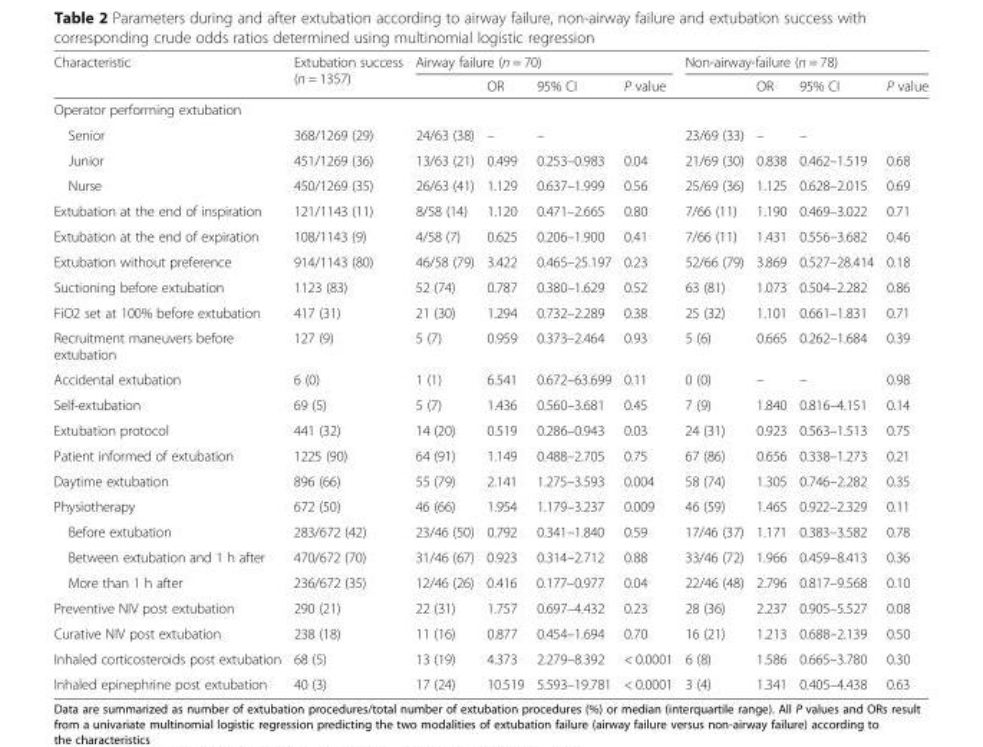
<table><thead><tr><td rowspan="2">Characteristic</td><td rowspan="2">Extubation success (n = 1357)</td><td colspan="4">Airway failure (n = 70)</td><td colspan="4">Non-airway-failure (n = 78)</td></tr><tr><td></td><td>OR</td><td>95% CI</td><td>P value</td><td></td><td>OR</td><td>95% CI</td><td>P value</td></tr></thead><tbody><tr><td colspan="10">Operator performing extubation</td></tr><tr><td>Senior</td><td>368/1269 (29)</td><td>24/63 (38)</td><td>–</td><td>–</td><td></td><td>23/69 (33)</td><td>–</td><td>–</td><td></td></tr><tr><td>Junior</td><td>451/1269 (36)</td><td>13/63 (21)</td><td>0.499</td><td>0.253–0.983</td><td>0.04</td><td>21/69 (30)</td><td>0.838</td><td>0.462–1.519</td><td>0.68</td></tr><tr><td>Nurse</td><td>450/1269 (35)</td><td>26/63 (41)</td><td>1.129</td><td>0.637–1.999</td><td>0.56</td><td>25/69 (36)</td><td>1.125</td><td>0.628–2.015</td><td>0.69</td></tr><tr><td>Extubation at the end of inspiration</td><td>121/1143 (11)</td><td>8/58 (14)</td><td>1.120</td><td>0.471–2.665</td><td>0.80</td><td>7/66 (11)</td><td>1.190</td><td>0.469–3.022</td><td>0.71</td></tr><tr><td>Extubation at the end of expiration</td><td>108/1143 (9)</td><td>4/58 (7)</td><td>0.625</td><td>0.206–1.900</td><td>0.41</td><td>7/66 (11)</td><td>1.431</td><td>0.556–3.682</td><td>0.46</td></tr><tr><td>Extubation without preference</td><td>914/1143 (80)</td><td>46/58 (79)</td><td>3.422</td><td>0.465–25.197</td><td>0.23</td><td>52/66 (79)</td><td>3.869</td><td>0.527–28.414</td><td>0.18</td></tr><tr><td>Suctioning before extubation</td><td>1123 (83)</td><td>52 (74)</td><td>0.787</td><td>0.380–1.629</td><td>0.52</td><td>63 (81)</td><td>1.073</td><td>0.504–2.282</td><td>0.86</td></tr><tr><td>FiO2 set at 100% before extubation</td><td>417 (31)</td><td>21 (30)</td><td>1.294</td><td>0.732–2.289</td><td>0.38</td><td>25 (32)</td><td>1.101</td><td>0.661–1.831</td><td>0.71</td></tr><tr><td>Recruitment maneuvers before extubation</td><td>127 (9)</td><td>5 (7)</td><td>0.959</td><td>0.373–2.464</td><td>0.93</td><td>5 (6)</td><td>0.665</td><td>0.262–1.684</td><td>0.39</td></tr><tr><td>Accidental extubation</td><td>6 (0)</td><td>1 (1)</td><td>6.541</td><td>0.672–63.699</td><td>0.11</td><td>0 (0)</td><td>–</td><td>–</td><td>0.98</td></tr><tr><td>Self-extubation</td><td>69 (5)</td><td>5 (7)</td><td>1.436</td><td>0.560–3.681</td><td>0.45</td><td>7 (9)</td><td>1.840</td><td>0.816–4.151</td><td>0.14</td></tr><tr><td>Extubation protocol</td><td>441 (32)</td><td>14 (20)</td><td>0.519</td><td>0.286–0.943</td><td>0.03</td><td>24 (31)</td><td>0.923</td><td>0.563–1.513</td><td>0.75</td></tr><tr><td>Patient informed of extubation</td><td>1225 (90)</td><td>64 (91)</td><td>1.149</td><td>0.488–2.705</td><td>0.75</td><td>67 (86)</td><td>0.656</td><td>0.338–1.273</td><td>0.21</td></tr><tr><td>Daytime extubation</td><td>896 (66)</td><td>55 (79)</td><td>2.141</td><td>1.275–3.593</td><td>0.004</td><td>58 (74)</td><td>1.305</td><td>0.746–2.282</td><td>0.35</td></tr><tr><td>Physiotherapy</td><td>672 (50)</td><td>46 (66)</td><td>1.954</td><td>1.179–3.237</td><td>0.009</td><td>46 (59)</td><td>1.465</td><td>0.922–2.329</td><td>0.11</td></tr><tr><td>Before extubation</td><td>283/672 (42)</td><td>23/46 (50)</td><td>0.792</td><td>0.341–1.840</td><td>0.59</td><td>17/46 (37)</td><td>1.171</td><td>0.383–3.582</td><td>0.78</td></tr><tr><td>Between extubation and 1 h after</td><td>470/672 (70)</td><td>31/46 (67)</td><td>0.923</td><td>0.314–2.712</td><td>0.88</td><td>33/46 (72)</td><td>1.966</td><td>0.459–8.413</td><td>0.36</td></tr><tr><td>More than 1 h after</td><td>236/672 (35)</td><td>12/46 (26)</td><td>0.416</td><td>0.177–0.977</td><td>0.04</td><td>22/46 (48)</td><td>2.796</td><td>0.817–9.568</td><td>0.10</td></tr><tr><td>Preventive NIV post extubation</td><td>290 (21)</td><td>22 (31)</td><td>1.757</td><td>0.697–4.432</td><td>0.23</td><td>28 (36)</td><td>2.237</td><td>0.905–5.527</td><td>0.08</td></tr><tr><td>Curative NIV post extubation</td><td>238 (18)</td><td>11 (16)</td><td>0.877</td><td>0.454–1.694</td><td>0.70</td><td>16 (21)</td><td>1.213</td><td>0.688–2.139</td><td>0.50</td></tr><tr><td>Inhaled corticosteroids post extubation</td><td>68 (5)</td><td>13 (19)</td><td>4.373</td><td>2.279–8.392</td><td>&lt; 0.0001</td><td>6 (8)</td><td>1.586</td><td>0.665–3.780</td><td>0.30</td></tr><tr><td>Inhaled epinephrine post extubation</td><td>40 (3)</td><td>17 (24)</td><td>10.519</td><td>5.593–19.781</td><td>&lt; 0.0001</td><td>3 (4)</td><td>1.341</td><td>0.405–4.438</td><td>0.63</td></tr></tbody></table>